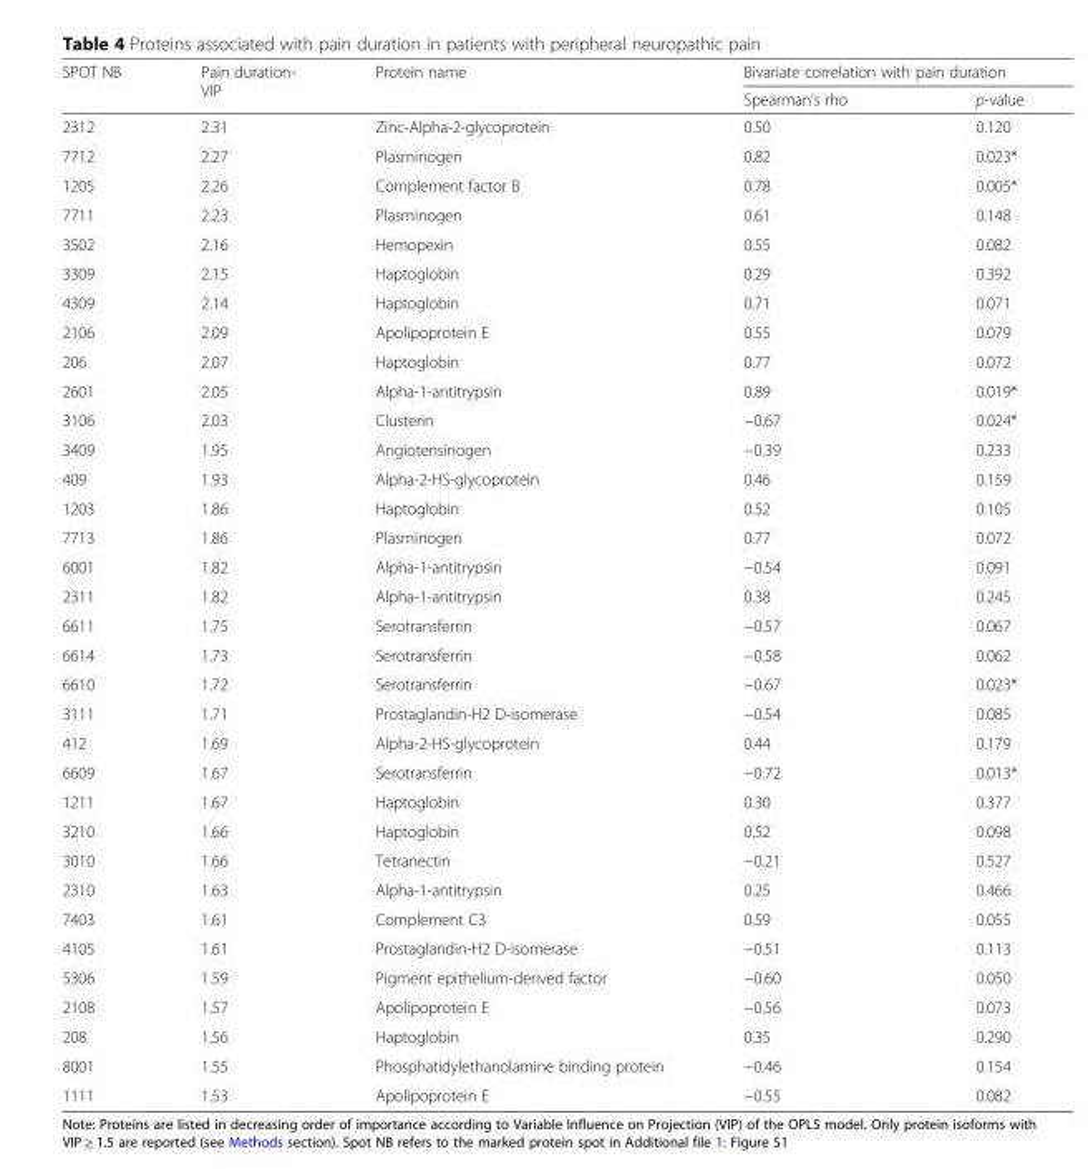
<table><thead><tr><td rowspan="2">SPOT NB</td><td rowspan="2">Pain duration- VIP</td><td rowspan="2">Protein name</td><td colspan="2">Bivariate correlation with pain duration</td></tr><tr><td>Spearman’s rho</td><td>p-value</td></tr></thead><tbody><tr><td>2312</td><td>2.31</td><td>Zinc-Alpha-2-glycoprotein</td><td>0.50</td><td>0.120</td></tr><tr><td>7712</td><td>2.27</td><td>Plasminogen</td><td>0.82</td><td>0.023*</td></tr><tr><td>1205</td><td>2.26</td><td>Complement factor B</td><td>0.78</td><td>0.005*</td></tr><tr><td>7711</td><td>2.23</td><td>Plasminogen</td><td>0.61</td><td>0.148</td></tr><tr><td>3502</td><td>2.16</td><td>Hemopexin</td><td>0.55</td><td>0.082</td></tr><tr><td>3309</td><td>2.15</td><td>Haptoglobin</td><td>0.29</td><td>0.392</td></tr><tr><td>4309</td><td>2.14</td><td>Haptoglobin</td><td>0.71</td><td>0.071</td></tr><tr><td>2106</td><td>2.09</td><td>Apolipoprotein E</td><td>0.55</td><td>0.079</td></tr><tr><td>206</td><td>2.07</td><td>Haptoglobin</td><td>0.77</td><td>0.072</td></tr><tr><td>2601</td><td>2.05</td><td>Alpha-1-antitrypsin</td><td>0.89</td><td>0.019*</td></tr><tr><td>3106</td><td>2.03</td><td>Clusterin</td><td>−0.67</td><td>0.024*</td></tr><tr><td>3409</td><td>1.95</td><td>Angiotensinogen</td><td>−0.39</td><td>0.233</td></tr><tr><td>409</td><td>1.93</td><td>Alpha-2-HS-glycoprotein</td><td>0.46</td><td>0.159</td></tr><tr><td>1203</td><td>1.86</td><td>Haptoglobin</td><td>0.52</td><td>0.105</td></tr><tr><td>7713</td><td>1.86</td><td>Plasminogen</td><td>0.77</td><td>0.072</td></tr><tr><td>6001</td><td>1.82</td><td>Alpha-1-antitrypsin</td><td>−0.54</td><td>0.091</td></tr><tr><td>2311</td><td>1.82</td><td>Alpha-1-antitrypsin</td><td>0.38</td><td>0.245</td></tr><tr><td>6611</td><td>1.75</td><td>Serotransferrin</td><td>−0.57</td><td>0.067</td></tr><tr><td>6614</td><td>1.73</td><td>Serotransferrin</td><td>−0.58</td><td>0.062</td></tr><tr><td>6610</td><td>1.72</td><td>Serotransferrin</td><td>−0.67</td><td>0.023*</td></tr><tr><td>3111</td><td>1.71</td><td>Prostaglandin-H2 D-isomerase</td><td>−0.54</td><td>0.085</td></tr><tr><td>412</td><td>1.69</td><td>Alpha-2-HS-glycoprotein</td><td>0.44</td><td>0.179</td></tr><tr><td>6609</td><td>1.67</td><td>Serotransferrin</td><td>−0.72</td><td>0.013*</td></tr><tr><td>1211</td><td>1.67</td><td>Haptoglobin</td><td>0.30</td><td>0.377</td></tr><tr><td>3210</td><td>1.66</td><td>Haptoglobin</td><td>0.52</td><td>0.098</td></tr><tr><td>3010</td><td>1.66</td><td>Tetranectin</td><td>−0.21</td><td>0.527</td></tr><tr><td>2310</td><td>1.63</td><td>Alpha-1-antitrypsin</td><td>0.25</td><td>0.466</td></tr><tr><td>7403</td><td>1.61</td><td>Complement C3</td><td>0.59</td><td>0.055</td></tr><tr><td>4105</td><td>1.61</td><td>Prostaglandin-H2 D-isomerase</td><td>−0.51</td><td>0.113</td></tr><tr><td>5306</td><td>1.59</td><td>Pigment epithelium-derived factor</td><td>−0.60</td><td>0.050</td></tr><tr><td>2108</td><td>1.57</td><td>Apolipoprotein E</td><td>−0.56</td><td>0.073</td></tr><tr><td>208</td><td>1.56</td><td>Haptoglobin</td><td>0.35</td><td>0.290</td></tr><tr><td>8001</td><td>1.55</td><td>Phosphatidylethanolamine binding protein</td><td>−0.46</td><td>0.154</td></tr><tr><td>1111</td><td>1.53</td><td>Apolipoprotein E</td><td>−0.55</td><td>0.082</td></tr></tbody></table>